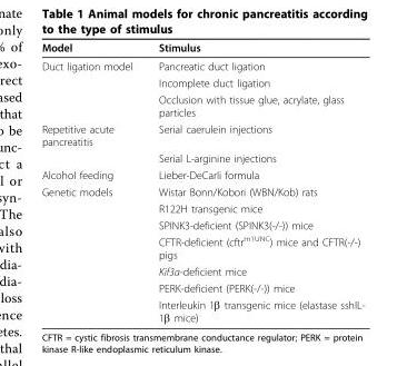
<table><thead><tr><td>Model</td><td>Stimulus</td></tr></thead><tbody><tr><td rowspan="3">Duct ligation model</td><td>Pancreatic duct ligation</td></tr><tr><td>Incomplete duct ligation</td></tr><tr><td>Occlusion with tissue glue, acrylate, glass particles</td></tr><tr><td rowspan="2">Repetitive acute pancreatitis</td><td>Serial caerulein injections</td></tr><tr><td>Serial L-arginine injections</td></tr><tr><td>Alcohol feeding</td><td>Lieber-DeCarli formula</td></tr><tr><td rowspan="7">Genetic models</td><td>Wistar Bonn/Kobori (WBN/Kob) rats</td></tr><tr><td>R122H transgenic mice</td></tr><tr><td>SPINK3-deficient (SPINK3(-/-)) mice</td></tr><tr><td>CFTR-deficient (cftr<sup>m1UNC</sup>) mice and CFTR(-/-) pigs</td></tr><tr><td>Kif3a-deficient mice</td></tr><tr><td>PERK-deficient (PERK(-/-)) mice</td></tr><tr><td>Interleukin 1β transgenic mice (elastase sshIL- 1β mice)</td></tr></tbody></table>